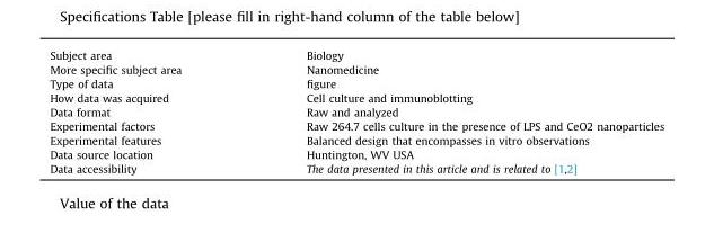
<table><tbody><tr><td>Subject area</td><td>Biology</td></tr><tr><td>More specific subject area</td><td>Nanomedicine</td></tr><tr><td>Type of data</td><td>figure</td></tr><tr><td>How data was acquired</td><td>Cell culture and immunoblotting</td></tr><tr><td>Data format</td><td>Raw and analyzed</td></tr><tr><td>Experimental factors</td><td>Raw 264.7 cells culture in the presence of LPS and CeO2 nanoparticles</td></tr><tr><td>Experimental features</td><td>Balanced design that encompasses in vitro observations</td></tr><tr><td>Data source location</td><td>Huntington, WV USA</td></tr><tr><td>Data accessibility</td><td>The data presented in this article and is related to [1,2]</td></tr></tbody></table>